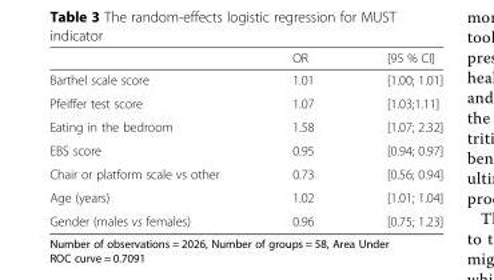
<table><thead><tr><td></td><td>OR</td><td>[95 % CI]</td></tr></thead><tbody><tr><td>Barthel scale score</td><td>1.01</td><td>[1.00; 1.01]</td></tr><tr><td>Pfeiffer test score</td><td>1.07</td><td>[1.03;1.11]</td></tr><tr><td>Eating in the bedroom</td><td>1.58</td><td>[1.07; 2.32]</td></tr><tr><td>EBS score</td><td>0.95</td><td>[0.94; 0.97]</td></tr><tr><td>Chair or platform scale vs other</td><td>0.73</td><td>[0.56; 0.94]</td></tr><tr><td>Age (years)</td><td>1.02</td><td>[1.01; 1.04]</td></tr><tr><td>Gender (males vs females)</td><td>0.96</td><td>[0.75; 1.23]</td></tr></tbody></table>